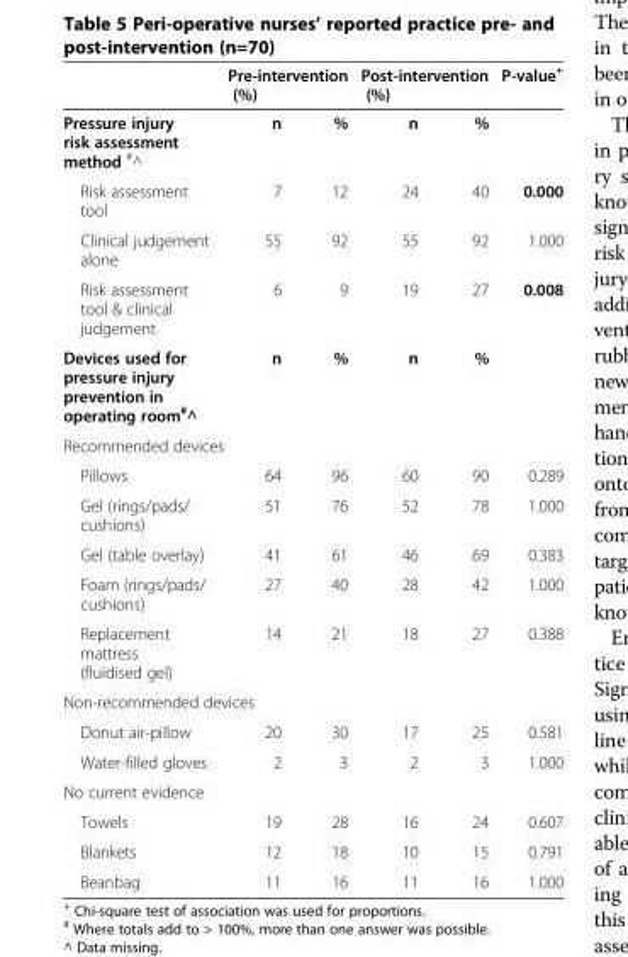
<table><thead><tr><td rowspan="2">Pressure injury risk assessment method #^</td><td colspan="2">Pre-intervention (%)</td><td colspan="2">Post-intervention (%)</td><td rowspan="2">P-value<sup>+</sup></td></tr><tr><td>n</td><td>%</td><td>n</td><td>%</td></tr></thead><tbody><tr><td>Risk assessment tool</td><td>7</td><td>12</td><td>24</td><td>40</td><td>0.000</td></tr><tr><td>Clinical judgement alone</td><td>55</td><td>92</td><td>55</td><td>92</td><td>1.000</td></tr><tr><td>Risk assessment tool &amp; clinical judgement</td><td>6</td><td>9</td><td>19</td><td>27</td><td>0.008</td></tr><tr><td>Devices used for pressure injury prevention in operating room<sup>#</sup>^</td><td>n</td><td>%</td><td>n</td><td>%</td><td></td></tr><tr><td colspan="6">Recommended devices</td></tr><tr><td>Pillows</td><td>64</td><td>96</td><td>60</td><td>90</td><td>0.289</td></tr><tr><td>Gel (rings/pads/ cushions)</td><td>51</td><td>76</td><td>52</td><td>78</td><td>1.000</td></tr><tr><td>Gel (table overlay)</td><td>41</td><td>61</td><td>46</td><td>69</td><td>0.383</td></tr><tr><td>Foam (rings/pads/ cushions)</td><td>27</td><td>40</td><td>28</td><td>42</td><td>1.000</td></tr><tr><td>Replacement mattress (fluidised gel)</td><td>14</td><td>21</td><td>18</td><td>27</td><td>0.388</td></tr><tr><td colspan="6">Non-recommended devices</td></tr><tr><td>Donut air-pillow</td><td>20</td><td>30</td><td>17</td><td>25</td><td>0.581</td></tr><tr><td>Water-filled gloves</td><td>2</td><td>3</td><td>2</td><td>3</td><td>1.000</td></tr><tr><td colspan="6">No current evidence</td></tr><tr><td>Towels</td><td>19</td><td>28</td><td>16</td><td>24</td><td>0.607</td></tr><tr><td>Blankets</td><td>12</td><td>18</td><td>10</td><td>15</td><td>0.791</td></tr><tr><td>Beanbag</td><td>11</td><td>16</td><td>11</td><td>16</td><td>1.000</td></tr></tbody></table>